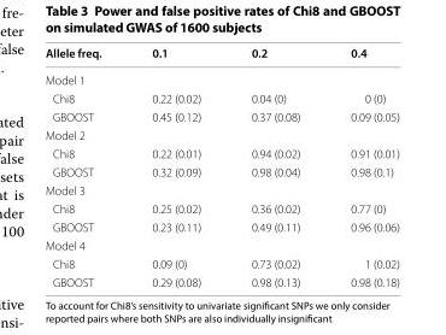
<table><thead><tr><td>Allele freq.</td><td>0.1</td><td>0.2</td><td>0.4</td></tr></thead><tbody><tr><td colspan="4">Model 1</td></tr><tr><td>Chi8</td><td>0.22 (0.02)</td><td>0.04 (0)</td><td>0 (0)</td></tr><tr><td>GBOOST</td><td>0.45 (0.12)</td><td>0.37 (0.08)</td><td>0.09 (0.05)</td></tr><tr><td colspan="4">Model 2</td></tr><tr><td>Chi8</td><td>0.22 (0.01)</td><td>0.94 (0.02)</td><td>0.91 (0.01)</td></tr><tr><td>GBOOST</td><td>0.32 (0.09)</td><td>0.98 (0.04)</td><td>0.98 (0.1)</td></tr><tr><td colspan="4">Model 3</td></tr><tr><td>Chi8</td><td>0.25 (0.02)</td><td>0.36 (0.02)</td><td>0.77 (0)</td></tr><tr><td>GBOOST</td><td>0.23 (0.11)</td><td>0.49 (0.11)</td><td>0.96 (0.06)</td></tr><tr><td colspan="4">Model 4</td></tr><tr><td>Chi8</td><td>0.09 (0)</td><td>0.73 (0.02)</td><td>1 (0.02)</td></tr><tr><td>GBOOST</td><td>0.29 (0.08)</td><td>0.98 (0.13)</td><td>0.98 (0.18)</td></tr></tbody></table>